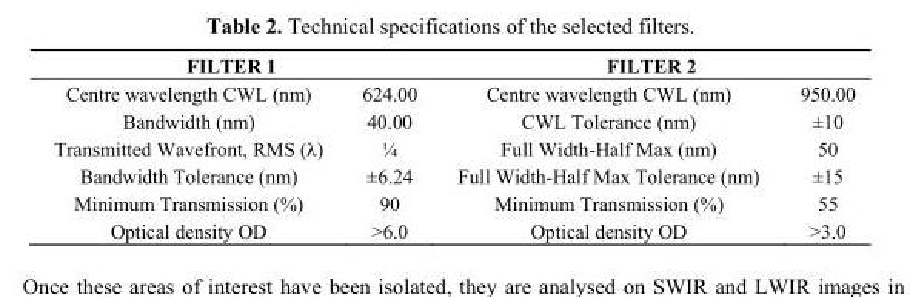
<table><thead><tr><td colspan="2">FILTER 1</td><td colspan="2">FILTER 2</td></tr><tr><td>Centre wavelength CWL (nm)</td><td>624.00</td><td>Centre wavelength CWL (nm)</td><td>950.00</td></tr></thead><tbody><tr><td>Bandwidth (nm)</td><td>40.00</td><td>CWL Tolerance (nm)</td><td>±10</td></tr><tr><td>Transmitted Wavefront, RMS (λ)</td><td>¼</td><td>Full Width-Half Max (nm)</td><td>50</td></tr><tr><td>Bandwidth Tolerance (nm)</td><td>±6.24</td><td>Full Width-Half Max Tolerance (nm)</td><td>±15</td></tr><tr><td>Minimum Transmission (%)</td><td>90</td><td>Minimum Transmission (%)</td><td>55</td></tr><tr><td>Optical density OD</td><td>&gt;6.0</td><td>Optical density OD</td><td>&gt;3.0</td></tr></tbody></table>